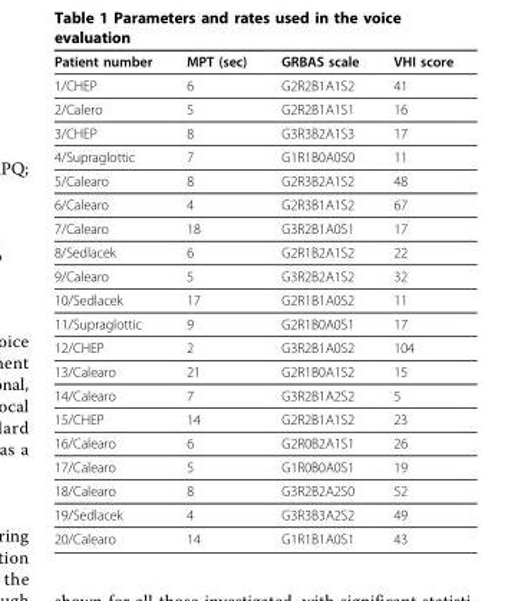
<table><thead><tr><td>Patient number</td><td>MPT (sec)</td><td>GRBAS scale</td><td>VHI score</td></tr></thead><tbody><tr><td>1/CHEP</td><td>6</td><td>G2R2B1A1S2</td><td>41</td></tr><tr><td>2/Calero</td><td>5</td><td>G2R2B1A1S1</td><td>16</td></tr><tr><td>3/CHEP</td><td>8</td><td>G3R3B2A1S3</td><td>17</td></tr><tr><td>4/Supraglottic</td><td>7</td><td>G1R1B0A0S0</td><td>11</td></tr><tr><td>5/Calearo</td><td>8</td><td>G2R3B2A1S2</td><td>48</td></tr><tr><td>6/Calearo</td><td>4</td><td>G2R3B1A1S2</td><td>67</td></tr><tr><td>7/Calearo</td><td>18</td><td>G3R2B1A0S1</td><td>17</td></tr><tr><td>8/Sedlacek</td><td>6</td><td>G2R1B2A1S2</td><td>22</td></tr><tr><td>9/Calearo</td><td>5</td><td>G3R2B2A1S2</td><td>32</td></tr><tr><td>10/Sedlacek</td><td>17</td><td>G2R1B1A0S2</td><td>11</td></tr><tr><td>11/Supraglottic</td><td>9</td><td>G2R1B0A0S1</td><td>17</td></tr><tr><td>12/CHEP</td><td>2</td><td>G3R2B1A0S2</td><td>104</td></tr><tr><td>13/Calearo</td><td>21</td><td>G2R1B0A1S2</td><td>15</td></tr><tr><td>14/Calearo</td><td>7</td><td>G3R2B1A2S2</td><td>5</td></tr><tr><td>15/CHEP</td><td>14</td><td>G2R2B1A1S2</td><td>23</td></tr><tr><td>16/Calearo</td><td>6</td><td>G2R0B2A1S1</td><td>26</td></tr><tr><td>17/Calearo</td><td>5</td><td>G1R0B0A0S1</td><td>19</td></tr><tr><td>18/Calearo</td><td>8</td><td>G3R2B2A2S0</td><td>52</td></tr><tr><td>19/Sedlacek</td><td>4</td><td>G3R3B3A2S2</td><td>49</td></tr><tr><td>20/Calearo</td><td>14</td><td>G1R1B1A0S1</td><td>43</td></tr></tbody></table>